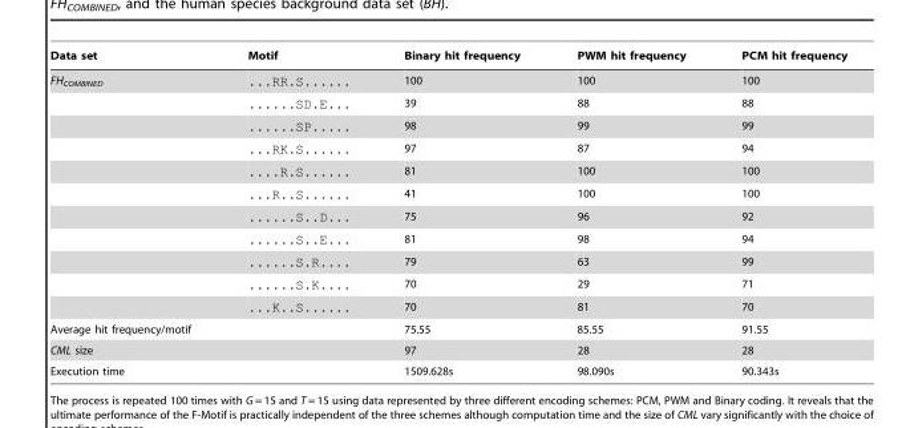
<table><thead><tr><td>Data set</td><td>Motif</td><td>Binary hit frequency</td><td>PWM hit frequency</td><td>PCM hit frequency</td></tr></thead><tbody><tr><td rowspan="11">FH<sub>COMBINED</sub></td><td>...RR.S......</td><td>100</td><td>100</td><td>100</td></tr><tr><td>......SD.E...</td><td>39</td><td>88</td><td>88</td></tr><tr><td>......SP.....</td><td>98</td><td>99</td><td>99</td></tr><tr><td>...RK.S......</td><td>97</td><td>87</td><td>94</td></tr><tr><td>....R.S......</td><td>81</td><td>100</td><td>100</td></tr><tr><td>...R..S......</td><td>41</td><td>100</td><td>100</td></tr><tr><td>......S..D...</td><td>75</td><td>96</td><td>92</td></tr><tr><td>......S..E...</td><td>81</td><td>98</td><td>94</td></tr><tr><td>......S.R....</td><td>79</td><td>63</td><td>99</td></tr><tr><td>......S.K....</td><td>70</td><td>29</td><td>71</td></tr><tr><td>...K..S......</td><td>70</td><td>81</td><td>70</td></tr><tr><td colspan="2">Average hit frequency/motif</td><td>75.55</td><td>85.55</td><td>91.55</td></tr><tr><td colspan="2">CML size</td><td>97</td><td>28</td><td>28</td></tr><tr><td colspan="2">Execution time</td><td>1509.628s</td><td>98.090s</td><td>90.343s</td></tr></tbody></table>